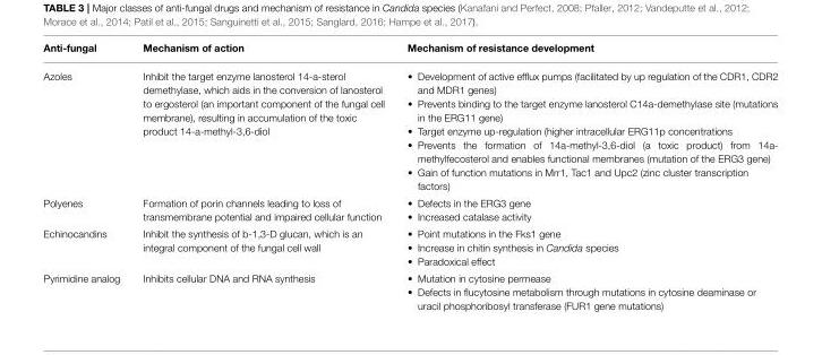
<table><thead><tr><td>Anti-fungal</td><td>Mechanism of action</td><td>Mechanism of resistance development</td></tr></thead><tbody><tr><td>Azoles</td><td>Inhibit the target enzyme lanosterol 14-a-sterol demethylase, which aids in the conversion of lanosterol to ergosterol (an important component of the fungal cell membrane), resulting in accumulation of the toxic product 14-a-methyl-3,6-diol</td><td>• Development of active efflux pumps (facilitated by up regulation of the CDR1, CDR2 and MDR1 genes) • Prevents binding to the target enzyme lanosterol C14a-demethylase site (mutations in the ERG11 gene) • Target enzyme up-regulation (higher intracellular ERG11p concentrations • Prevents the formation of 14a-methyl-3,6-diol (a toxic product) from 14a- methylfecosterol and enables functional membranes (mutation of the ERG3 gene) • Gain of function mutations in Mrr1, Tac1 and Upc2 (zinc cluster transcription factors)</td></tr><tr><td>Polyenes</td><td>Formation of porin channels leading to loss of transmembrane potential and impaired cellular function</td><td>• Defects in the ERG3 gene • Increased catalase activity</td></tr><tr><td>Echinocandins</td><td>Inhibit the synthesis of b-1,3-D glucan, which is an integral component of the fungal cell wall</td><td>• Point mutations in the Fks1 gene • Increase in chitin synthesis in Candida species • Paradoxical effect</td></tr><tr><td>Pyrimidine analog</td><td>Inhibits cellular DNA and RNA synthesis</td><td>• Mutation in cytosine permease • Defects in flucytosine metabolism through mutations in cytosine deaminase or uracil phosphoribosyl transferase (FUR1 gene mutations)</td></tr></tbody></table>